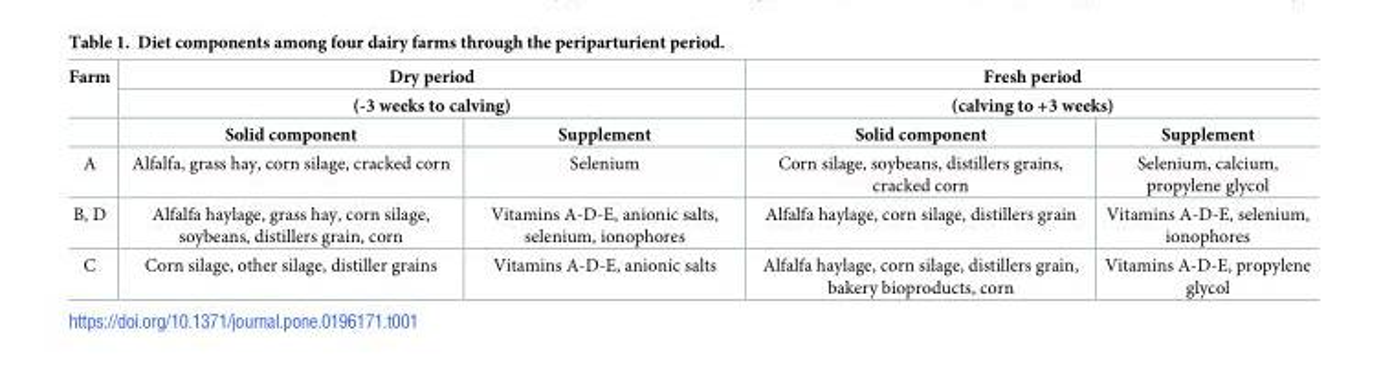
<table><thead><tr><td rowspan="3">Farm</td><td rowspan="2" colspan="2">Dry period (-3 weeks to calving)</td><td rowspan="2" colspan="2">Fresh period (calving to +3 weeks)</td></tr><tr></tr><tr><td>Solid component</td><td>Supplement</td><td>Solid component</td><td>Supplement</td></tr></thead><tbody><tr><td>A</td><td>Alfalfa, grass hay, corn silage, cracked corn</td><td>Selenium</td><td>Corn silage, soybeans, distillers grains, cracked corn</td><td>Selenium, calcium, propylene glycol</td></tr><tr><td>B, D</td><td>Alfalfa haylage, grass hay, corn silage, soybeans, distillers grain, corn</td><td>Vitamins A-D-E, anionic salts, selenium, ionophores</td><td>Alfalfa haylage, corn silage, distillers grain</td><td>Vitamins A-D-E, selenium, ionophores</td></tr><tr><td>C</td><td>Corn silage, other silage, distiller grains</td><td>Vitamins A-D-E, anionic salts</td><td>Alfalfa haylage, corn silage, distillers grain, bakery bioproducts, corn</td><td>Vitamins A-D-E, propylene glycol</td></tr></tbody></table>